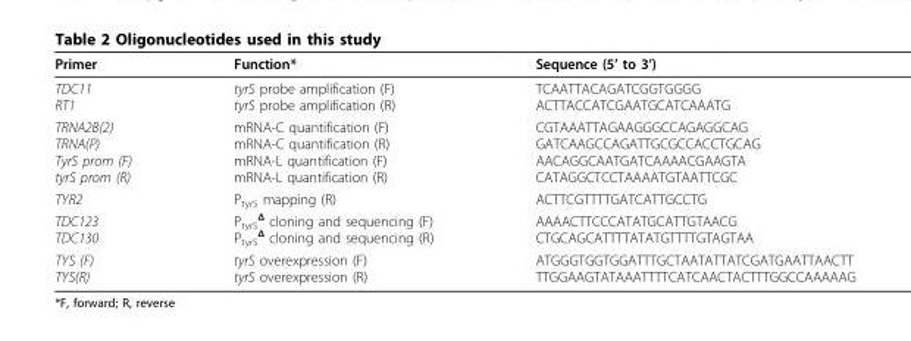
<table><thead><tr><td>Primer</td><td>Function*</td><td>Sequence (5’ to 3’)</td></tr></thead><tbody><tr><td>TDC11 RT1</td><td>tyrS probe amplification (F) tyrS probe amplification (R)</td><td>TCAATTACAGATCGGTGGGG ACTTACCATCGAATGCATCAAATG</td></tr><tr><td>TRNA2B(2) TRNA(P) TyrS prom (F) tyrS prom (R)</td><td>mRNA-C quantification (F) mRNA-C quantification (R) mRNA-L quantification (F) mRNA-L quantification (R)</td><td>CGTAAATTAGAAGGGCCAGAGGCAG GATCAAGCCAGATTGCGCCACCTGCAG AACAGGCAATGATCAAAACGAAGTA CATAGGCTCCTAAAATGTAATTCGC</td></tr><tr><td>TYR2</td><td>P<sub>tyrS</sub> mapping (R)</td><td>ACTTCGTTTTGATCATTGCCTG</td></tr><tr><td>TDC123 TDC130</td><td>P<sub>tyrS</sub> <sup>Δ</sup> cloning and sequencing (F) P<sub>tyrS</sub> <sup>Δ</sup> cloning and sequencing (R)</td><td>AAAACTTCCCATATGCATTGTAACG CTGCAGCATTTTATATGTTTTGTAGTAA</td></tr><tr><td>TYS (F) TYS(R)</td><td>tyrS overexpression (F) tyrS overexpression (R)</td><td>ATGGGTGGTGGATTTGCTAATATTATCGATGAATTAACTT TTGGAAGTATAAATTTTCATCAACTACTTTGGCCAAAAAG</td></tr></tbody></table>